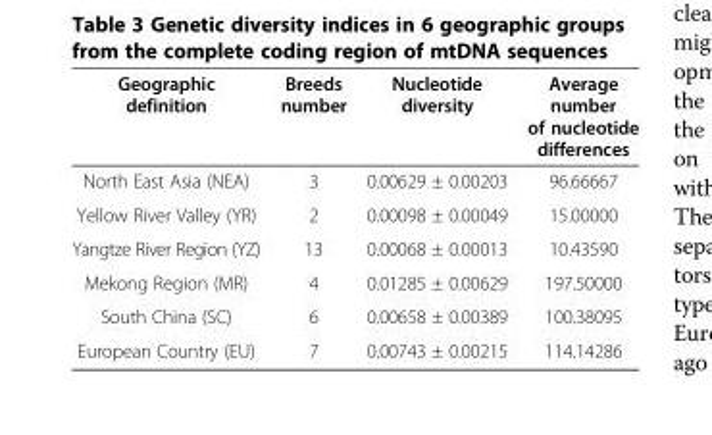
<table><thead><tr><td>Geographic definition</td><td>Breeds number</td><td>Nucleotide diversity</td><td>Average number of nucleotide differences</td></tr></thead><tbody><tr><td>North East Asia (NEA)</td><td>3</td><td>0.00629 ± 0.00203</td><td>96.66667</td></tr><tr><td>Yellow River Valley (YR)</td><td>2</td><td>0.00098 ± 0.00049</td><td>15.00000</td></tr><tr><td>Yangtze River Region (YZ)</td><td>13</td><td>0.00068 ± 0.00013</td><td>10.43590</td></tr><tr><td>Mekong Region (MR)</td><td>4</td><td>0.01285 ± 0.00629</td><td>197.50000</td></tr><tr><td>South China (SC)</td><td>6</td><td>0.00658 ± 0.00389</td><td>100.38095</td></tr><tr><td>European Country (EU)</td><td>7</td><td>0.00743 ± 0.00215</td><td>114.14286</td></tr></tbody></table>